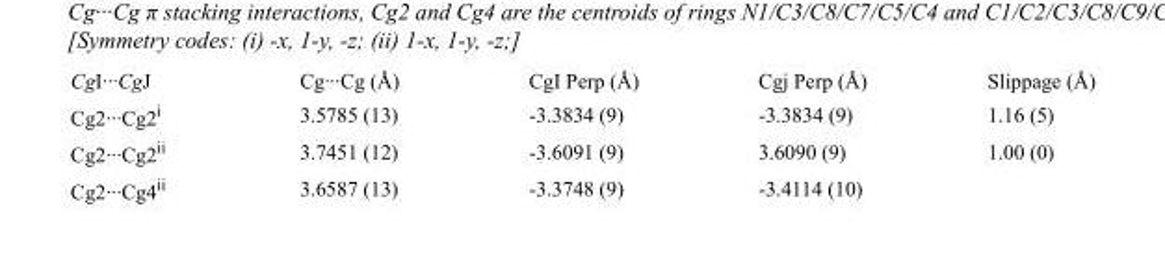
<table><tbody><tr><td>CgI···CgJ</td><td>Cg···Cg (Å)</td><td>CgI Perp (Å)</td><td>Cgj Perp (Å)</td><td>Slippage (Å)</td></tr><tr><td>Cg2···Cg2<sup>i</sup></td><td>3.5785 (13)</td><td>-3.3834 (9)</td><td>-3.3834 (9)</td><td>1.16 (5)</td></tr><tr><td>Cg2···Cg2<sup>ii</sup></td><td>3.7451 (12)</td><td>-3.6091 (9)</td><td>3.6090 (9)</td><td>1.00 (0)</td></tr><tr><td>Cg2···Cg4<sup>ii</sup></td><td>3.6587 (13)</td><td>-3.3748 (9)</td><td>-3.4114 (10)</td><td></td></tr></tbody></table>